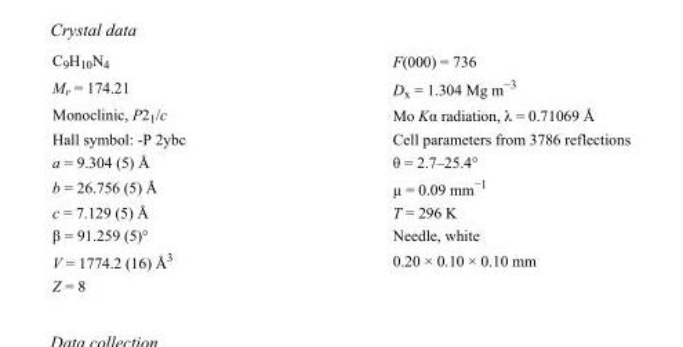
<table><tbody><tr><td>C<sub>9</sub>H<sub>10</sub>N<sub>4</sub></td><td>F(000) = 736</td></tr><tr><td>M<sub>r</sub> = 174.21</td><td>D<sub>x</sub> = 1.304 Mg m<sup>−3</sup></td></tr><tr><td>Monoclinic, P2<sub>1</sub>/c</td><td>Mo Kα radiation, λ = 0.71069 Å</td></tr><tr><td>Hall symbol: -P 2ybc</td><td>Cell parameters from 3786 reflections</td></tr><tr><td>a = 9.304 (5) Å</td><td>θ = 2.7–25.4°</td></tr><tr><td>b = 26.756 (5) Å</td><td>µ = 0.09 mm<sup>−1</sup></td></tr><tr><td>c = 7.129 (5) Å</td><td>T = 296 K</td></tr><tr><td>β = 91.259 (5)°</td><td>Needle, white</td></tr><tr><td>V = 1774.2 (16) Å<sup>3</sup></td><td>0.20 × 0.10 × 0.10 mm</td></tr><tr><td>Z = 8</td><td></td></tr></tbody></table>